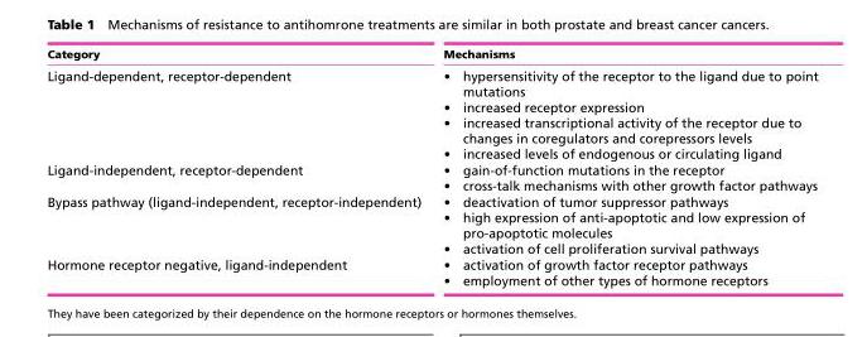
<table><thead><tr><td>Category</td><td>Mechanisms</td></tr></thead><tbody><tr><td>Ligand-dependent, receptor-dependent</td><td>• hypersensitivity of the receptor to the ligand due to point mutations • increased receptor expression • increased transcriptional activity of the receptor due to changes in coregulators and corepressors levels • increased levels of endogenous or circulating ligand</td></tr><tr><td>Ligand-independent, receptor-dependent</td><td>• gain-of-function mutations in the receptor • cross-talk mechanisms with other growth factor pathways</td></tr><tr><td>Bypass pathway (ligand-independent, receptor-independent)</td><td>• deactivation of tumor suppressor pathways • high expression of anti-apoptotic and low expression of pro-apoptotic molecules • activation of cell proliferation survival pathways</td></tr><tr><td>Hormone receptor negative, ligand-independent</td><td>• activation of growth factor receptor pathways • employment of other types of hormone receptors</td></tr></tbody></table>